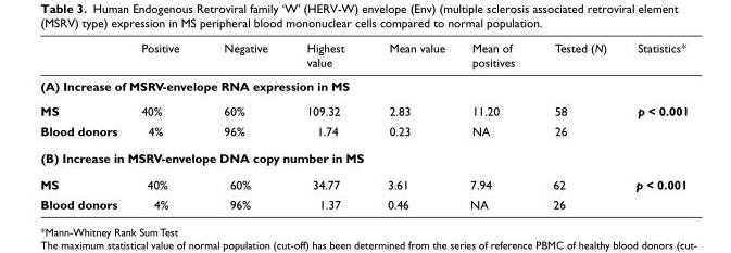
<table><thead><tr><td></td><td>Positive</td><td>Negative</td><td>Highest value</td><td>Mean value</td><td>Mean of positives</td><td>Tested (N)</td><td>Statistics*</td></tr></thead><tbody><tr><td colspan="8">(A) Increase of MSRV-envelope RNA expression in MS</td></tr><tr><td>MS</td><td>40%</td><td>60%</td><td>109.32</td><td>2.83</td><td>11.20</td><td>58</td><td>p &lt; 0.001</td></tr><tr><td>Blood donors</td><td>4%</td><td>96%</td><td>1.74</td><td>0.23</td><td>NA</td><td>26</td><td></td></tr><tr><td colspan="8">(B) Increase in MSRV-envelope DNA copy number in MS</td></tr><tr><td>MS</td><td>40%</td><td>60%</td><td>34.77</td><td>3.61</td><td>7.94</td><td>62</td><td>p &lt; 0.001</td></tr><tr><td>Blood donors</td><td>4%</td><td>96%</td><td>1.37</td><td>0.46</td><td>NA</td><td>26</td><td></td></tr></tbody></table>